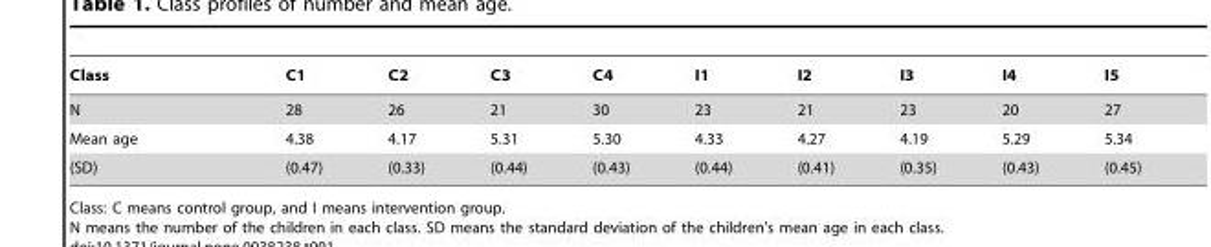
<table><thead><tr><td>Class</td><td>C1</td><td>C2</td><td>C3</td><td>C4</td><td>I1</td><td>I2</td><td>I3</td><td>I4</td><td>I5</td></tr></thead><tbody><tr><td>N</td><td>28</td><td>26</td><td>21</td><td>30</td><td>23</td><td>21</td><td>23</td><td>20</td><td>27</td></tr><tr><td>Mean age</td><td>4.38</td><td>4.17</td><td>5.31</td><td>5.30</td><td>4.33</td><td>4.27</td><td>4.19</td><td>5.29</td><td>5.34</td></tr><tr><td>(SD)</td><td>(0.47)</td><td>(0.33)</td><td>(0.44)</td><td>(0.43)</td><td>(0.44)</td><td>(0.41)</td><td>(0.35)</td><td>(0.43)</td><td>(0.45)</td></tr></tbody></table>